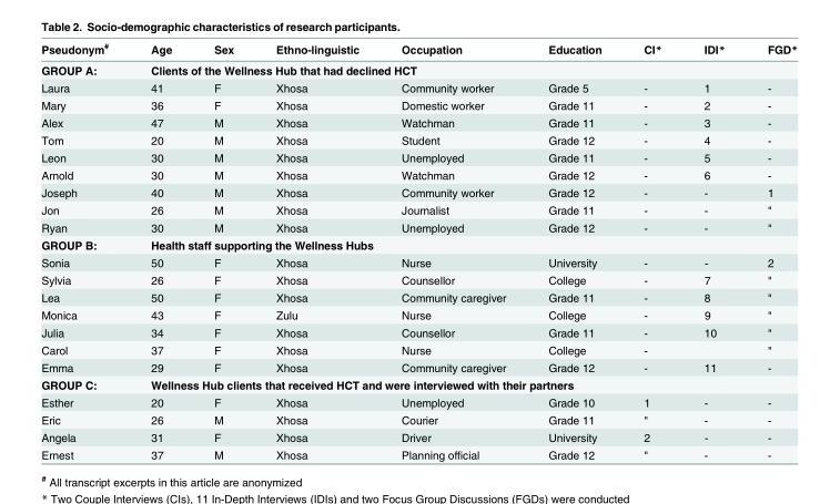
<table><thead><tr><td>Pseudonym<sup>#</sup></td><td>Age</td><td>Sex</td><td>Ethno-linguistic</td><td>Occupation</td><td>Education</td><td>CI*</td><td>IDI*</td><td>FGD*</td></tr></thead><tbody><tr><td>GROUP A:</td><td colspan="8">Clients of the Wellness Hub that had declined HCT</td></tr><tr><td>Laura</td><td>41</td><td>F</td><td>Xhosa</td><td>Community worker</td><td>Grade 5</td><td>-</td><td>1</td><td>-</td></tr><tr><td>Mary</td><td>36</td><td>F</td><td>Xhosa</td><td>Domestic worker</td><td>Grade 11</td><td>-</td><td>2</td><td>-</td></tr><tr><td>Alex</td><td>47</td><td>M</td><td>Xhosa</td><td>Watchman</td><td>Grade 11</td><td>-</td><td>3</td><td>-</td></tr><tr><td>Tom</td><td>20</td><td>M</td><td>Xhosa</td><td>Student</td><td>Grade 12</td><td>-</td><td>4</td><td>-</td></tr><tr><td>Leon</td><td>30</td><td>M</td><td>Xhosa</td><td>Unemployed</td><td>Grade 11</td><td>-</td><td>5</td><td>-</td></tr><tr><td>Arnold</td><td>30</td><td>M</td><td>Xhosa</td><td>Watchman</td><td>Grade 12</td><td>-</td><td>6</td><td>-</td></tr><tr><td>Joseph</td><td>40</td><td>M</td><td>Xhosa</td><td>Community worker</td><td>Grade 12</td><td>-</td><td>-</td><td>1</td></tr><tr><td>Jon</td><td>26</td><td>M</td><td>Xhosa</td><td>Journalist</td><td>Grade 11</td><td>-</td><td>-</td><td>&quot;</td></tr><tr><td>Ryan</td><td>30</td><td>M</td><td>Xhosa</td><td>Unemployed</td><td>Grade 12</td><td>-</td><td>-</td><td>&quot;</td></tr><tr><td>GROUP B:</td><td colspan="8">Health staff supporting the Wellness Hubs</td></tr><tr><td>Sonia</td><td>50</td><td>F</td><td>Xhosa</td><td>Nurse</td><td>University</td><td>-</td><td>-</td><td>2</td></tr><tr><td>Sylvia</td><td>26</td><td>F</td><td>Xhosa</td><td>Counsellor</td><td>College</td><td>-</td><td>7</td><td>&quot;</td></tr><tr><td>Lea</td><td>50</td><td>F</td><td>Xhosa</td><td>Community caregiver</td><td>Grade 11</td><td>-</td><td>8</td><td>&quot;</td></tr><tr><td>Monica</td><td>43</td><td>F</td><td>Zulu</td><td>Nurse</td><td>College</td><td>-</td><td>9</td><td>&quot;</td></tr><tr><td>Julia</td><td>34</td><td>F</td><td>Xhosa</td><td>Counsellor</td><td>Grade 11</td><td>-</td><td>10</td><td>&quot;</td></tr><tr><td>Carol</td><td>37</td><td>F</td><td>Xhosa</td><td>Nurse</td><td>College</td><td>-</td><td></td><td>&quot;</td></tr><tr><td>Emma</td><td>29</td><td>F</td><td>Xhosa</td><td>Community caregiver</td><td>Grade 12</td><td>-</td><td>11</td><td>-</td></tr><tr><td>GROUP C:</td><td colspan="8">Wellness Hub clients that received HCT and were interviewed with their partners</td></tr><tr><td>Esther</td><td>20</td><td>F</td><td>Xhosa</td><td>Unemployed</td><td>Grade 10</td><td>1</td><td>-</td><td>-</td></tr><tr><td>Eric</td><td>26</td><td>M</td><td>Xhosa</td><td>Courier</td><td>Grade 11</td><td>&quot;</td><td>-</td><td>-</td></tr><tr><td>Angela</td><td>31</td><td>F</td><td>Xhosa</td><td>Driver</td><td>University</td><td>2</td><td>-</td><td>-</td></tr><tr><td>Ernest</td><td>37</td><td>M</td><td>Xhosa</td><td>Planning official</td><td>Grade 12</td><td>&quot;</td><td>-</td><td>-</td></tr></tbody></table>